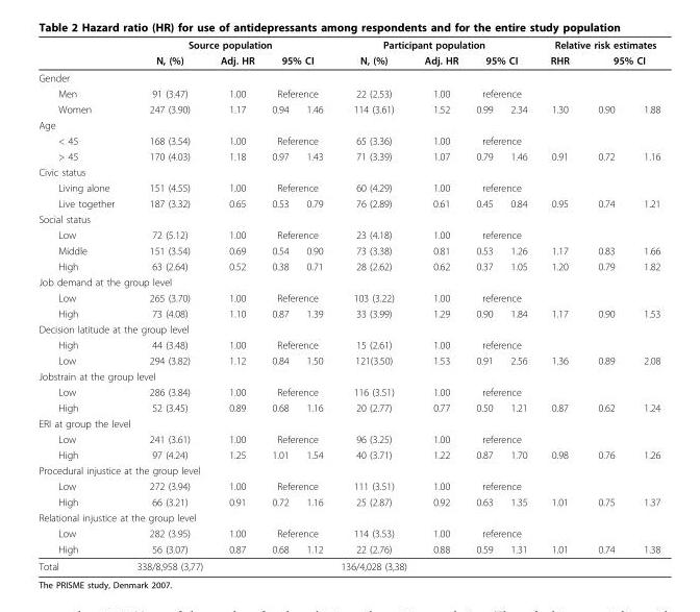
<table><thead><tr><td rowspan="2"></td><td colspan="4">Source population</td><td colspan="4">Participant population</td><td colspan="3">Relative risk estimates</td></tr><tr><td>N, (%)</td><td>Adj. HR</td><td colspan="2">95% CI</td><td>N, (%)</td><td>Adj. HR</td><td colspan="2">95% CI</td><td>RHR</td><td colspan="2">95% CI</td></tr><tr><td colspan="12">Gender</td></tr><tr><td rowspan="2">Men Women</td><td rowspan="2">91 (3.47) 247 (3.90)</td><td rowspan="2">1.00 1.17</td><td colspan="2">Reference</td><td rowspan="2">22 (2.53) 114 (3.61)</td><td rowspan="2">1.00 1.52</td><td colspan="2">reference</td><td rowspan="2">1.30</td><td rowspan="2">0.90</td><td rowspan="2">1.88</td></tr><tr><td>0.94</td><td>1.46</td><td>0.99</td><td>2.34</td></tr></thead><tbody><tr><td colspan="12">Age</td></tr><tr><td>&lt; 45</td><td>168 (3.54)</td><td>1.00</td><td colspan="2">Reference</td><td>65 (3.36)</td><td>1.00</td><td colspan="2">reference</td><td></td><td></td><td></td></tr><tr><td>&gt; 45</td><td>170 (4.03)</td><td>1.18</td><td>0.97</td><td>1.43</td><td>71 (3.39)</td><td>1.07</td><td>0.79</td><td>1.46</td><td>0.91</td><td>0.72</td><td>1.16</td></tr><tr><td colspan="12">Civic status</td></tr><tr><td>Living alone</td><td>151 (4.55)</td><td>1.00</td><td colspan="2">Reference</td><td>60 (4.29)</td><td>1.00</td><td colspan="2">reference</td><td></td><td></td><td></td></tr><tr><td>Live together</td><td>187 (3.32)</td><td>0.65</td><td>0.53</td><td>0.79</td><td>76 (2.89)</td><td>0.61</td><td>0.45</td><td>0.84</td><td>0.95</td><td>0.74</td><td>1.21</td></tr><tr><td colspan="12">Social status</td></tr><tr><td>Low</td><td>72 (5.12)</td><td>1.00</td><td colspan="2">Reference</td><td>23 (4.18)</td><td>1.00</td><td colspan="2">reference</td><td></td><td></td><td></td></tr><tr><td>Middle</td><td>151 (3.54)</td><td>0.69</td><td>0.54</td><td>0.90</td><td>73 (3.38)</td><td>0.81</td><td>0.53</td><td>1.26</td><td>1.17</td><td>0.83</td><td>1.66</td></tr><tr><td>High</td><td>63 (2.64)</td><td>0.52</td><td>0.38</td><td>0.71</td><td>28 (2.62)</td><td>0.62</td><td>0.37</td><td>1.05</td><td>1.20</td><td>0.79</td><td>1.82</td></tr><tr><td colspan="12">Job demand at the group level</td></tr><tr><td>Low</td><td>265 (3.70)</td><td>1.00</td><td colspan="2">Reference</td><td>103 (3.22)</td><td>1.00</td><td colspan="2">reference</td><td></td><td></td><td></td></tr><tr><td>High</td><td>73 (4.08)</td><td>1.10</td><td>0.87</td><td>1.39</td><td>33 (3.99)</td><td>1.29</td><td>0.90</td><td>1.84</td><td>1.17</td><td>0.90</td><td>1.53</td></tr><tr><td colspan="12">Decision latitude at the group level</td></tr><tr><td>High</td><td>44 (3.48)</td><td>1.00</td><td colspan="2">Reference</td><td>15 (2.61)</td><td>1.00</td><td colspan="2">reference</td><td></td><td></td><td></td></tr><tr><td>Low</td><td>294 (3.82)</td><td>1.12</td><td>0.84</td><td>1.50</td><td>121(3.50)</td><td>1.53</td><td>0.91</td><td>2.56</td><td>1.36</td><td>0.89</td><td>2.08</td></tr><tr><td colspan="12">Jobstrain at the group level</td></tr><tr><td>Low</td><td>286 (3.84)</td><td>1.00</td><td colspan="2">Reference</td><td>116 (3.51)</td><td>1.00</td><td colspan="2">reference</td><td></td><td></td><td></td></tr><tr><td>High</td><td>52 (3.45)</td><td>0.89</td><td>0.68</td><td>1.16</td><td>20 (2.77)</td><td>0.77</td><td>0.50</td><td>1.21</td><td>0.87</td><td>0.62</td><td>1.24</td></tr><tr><td colspan="12">ERI at group the level</td></tr><tr><td>Low</td><td>241 (3.61)</td><td>1.00</td><td colspan="2">Reference</td><td>96 (3.25)</td><td>1.00</td><td colspan="2">reference</td><td></td><td></td><td></td></tr><tr><td>High</td><td>97 (4.24)</td><td>1.25</td><td>1.01</td><td>1.54</td><td>40 (3.71)</td><td>1.22</td><td>0.87</td><td>1.70</td><td>0.98</td><td>0.76</td><td>1.26</td></tr><tr><td colspan="12">Procedural injustice at the group level</td></tr><tr><td>Low</td><td>272 (3.94)</td><td>1.00</td><td colspan="2">Reference</td><td>111 (3.51)</td><td>1.00</td><td colspan="2">reference</td><td></td><td></td><td></td></tr><tr><td>High</td><td>66 (3.21)</td><td>0.91</td><td>0.72</td><td>1.16</td><td>25 (2.87)</td><td>0.92</td><td>0.63</td><td>1.35</td><td>1.01</td><td>0.75</td><td>1.37</td></tr><tr><td colspan="12">Relational injustice at the group level</td></tr><tr><td>Low</td><td>282 (3.95)</td><td>1.00</td><td colspan="2">Reference</td><td>114 (3.53)</td><td>1.00</td><td colspan="2">reference</td><td></td><td></td><td></td></tr><tr><td>High</td><td>56 (3.07)</td><td>0.87</td><td>0.68</td><td>1.12</td><td>22 (2.76)</td><td>0.88</td><td>0.59</td><td>1.31</td><td>1.01</td><td>0.74</td><td>1.38</td></tr><tr><td>Total</td><td>338/8,958 (3,77)</td><td></td><td></td><td></td><td>136/4,028 (3,38)</td><td></td><td></td><td></td><td></td><td></td><td></td></tr></tbody></table>